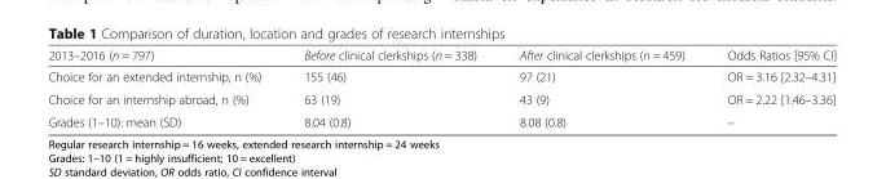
<table><thead><tr><td>2013–2016 (n = 797)</td><td>Before clinical clerkships (n = 338)</td><td>After clinical clerkships (n = 459)</td><td>Odds Ratios [95% CI]</td></tr></thead><tbody><tr><td>Choice for an extended internship, n (%)</td><td>155 (46)</td><td>97 (21)</td><td>OR = 3.16 [2.32–4.31]</td></tr><tr><td>Choice for an internship abroad, n (%)</td><td>63 (19)</td><td>43 (9)</td><td>OR = 2.22 [1.46–3.36]</td></tr><tr><td>Grades (1–10): mean (SD)</td><td>8.04 (0.8)</td><td>8.08 (0.8)</td><td>–</td></tr></tbody></table>